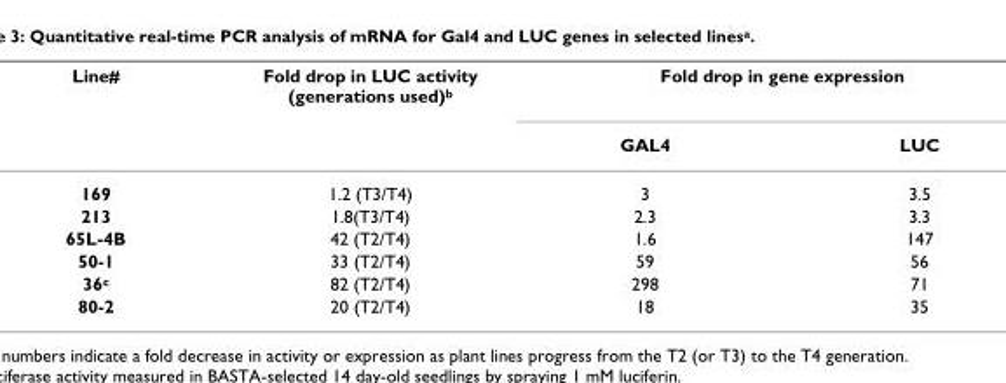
<table><thead><tr><td rowspan="2">Line#</td><td rowspan="2">Fold drop in LUC activity (generations used)b</td><td colspan="2">Fold drop in gene expression</td></tr><tr><td>GAL4</td><td>LUC</td></tr></thead><tbody><tr><td>169</td><td>1.2 (T3/T4)</td><td>3</td><td>3.5</td></tr><tr><td>213</td><td>1.8(T3/T4)</td><td>2.3</td><td>3.3</td></tr><tr><td>65L-4B</td><td>42 (T2/T4)</td><td>1.6</td><td>147</td></tr><tr><td>50-1</td><td>33 (T2/T4)</td><td>59</td><td>56</td></tr><tr><td>36c</td><td>82 (T2/T4)</td><td>298</td><td>71</td></tr><tr><td>80-2</td><td>20 (T2/T4)</td><td>18</td><td>35</td></tr></tbody></table>